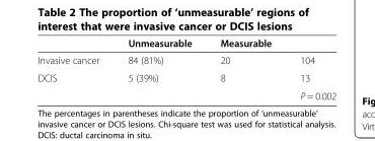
<table><thead><tr><td></td><td>Unmeasurable</td><td>Measurable</td><td></td></tr></thead><tbody><tr><td>Invasive cancer</td><td>84 (81%)</td><td>20</td><td>104</td></tr><tr><td>DCIS</td><td>5 (39%)</td><td>8</td><td>13</td></tr><tr><td colspan="3"></td><td>P = 0.002</td></tr></tbody></table>